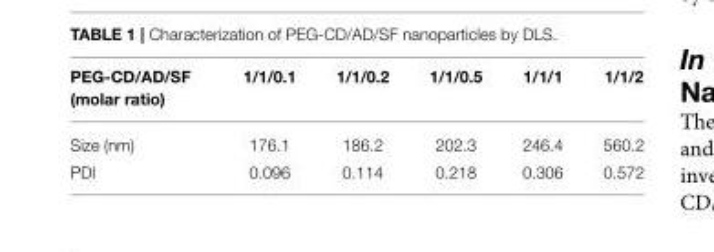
<table><thead><tr><td>PEG-CD/AD/SF (molar ratio)</td><td>1/1/0.1</td><td>1/1/0.2</td><td>1/1/0.5</td><td>1/1/1</td><td>1/1/2</td></tr></thead><tbody><tr><td>Size (nm)</td><td>176.1</td><td>186.2</td><td>202.3</td><td>246.4</td><td>560.2</td></tr><tr><td>PDI</td><td>0.096</td><td>0.114</td><td>0.218</td><td>0.306</td><td>0.572</td></tr></tbody></table>